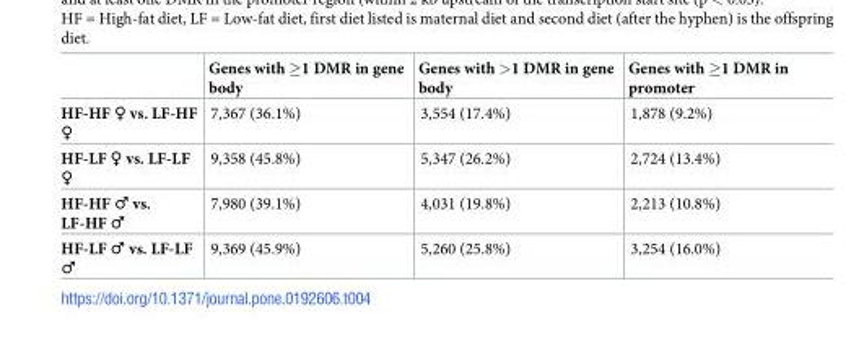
<table><thead><tr><td></td><td>Genes with ≥1 DMR in gene body</td><td>Genes with &gt;1 DMR in gene body</td><td>Genes with ≥1 DMR in promoter</td></tr></thead><tbody><tr><td>HF-HF ♀ vs. LF-HF ♀</td><td>7,367 (36.1%)</td><td>3,554 (17.4%)</td><td>1,878 (9.2%)</td></tr><tr><td>HF-LF ♀ vs. LF-LF ♀</td><td>9,358 (45.8%)</td><td>5,347 (26.2%)</td><td>2,724 (13.4%)</td></tr><tr><td>HF-HF ♂ vs. LF-HF ♂</td><td>7,980 (39.1%)</td><td>4,031 (19.8%)</td><td>2,213 (10.8%)</td></tr><tr><td>HF-LF ♂ vs. LF-LF ♂</td><td>9,369 (45.9%)</td><td>5,260 (25.8%)</td><td>3,254 (16.0%)</td></tr></tbody></table>